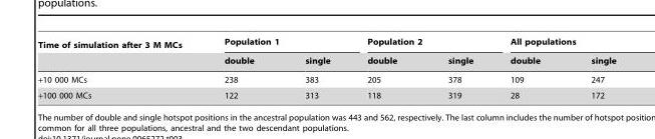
<table><thead><tr><td rowspan="2">Time of simulation after 3 M MCs</td><td colspan="2">Population 1</td><td colspan="2">Population 2</td><td colspan="2">All populations</td></tr><tr><td>double</td><td>single</td><td>double</td><td>single</td><td>double</td><td>single</td></tr></thead><tbody><tr><td>+10 000 MCs</td><td>238</td><td>383</td><td>205</td><td>378</td><td>109</td><td>247</td></tr><tr><td>+100 000 MCs</td><td>122</td><td>313</td><td>118</td><td>319</td><td>28</td><td>172</td></tr></tbody></table>